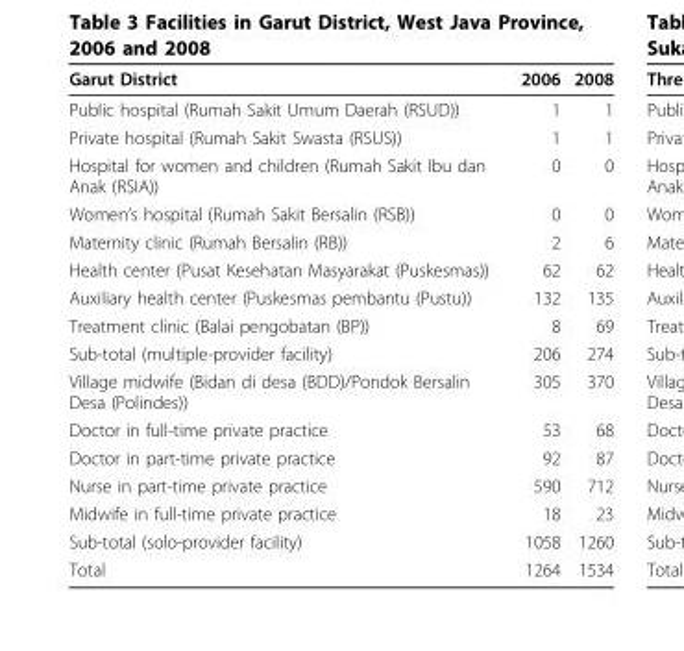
<table><thead><tr><td>Garut District</td><td>2006</td><td>2008</td></tr></thead><tbody><tr><td>Public hospital (Rumah Sakit Umum Daerah (RSUD))</td><td>1</td><td>1</td></tr><tr><td>Private hospital (Rumah Sakit Swasta (RSUS))</td><td>1</td><td>1</td></tr><tr><td>Hospital for women and children (Rumah Sakit Ibu dan Anak (RSIA))</td><td>0</td><td>0</td></tr><tr><td>Women’s hospital (Rumah Sakit Bersalin (RSB))</td><td>0</td><td>0</td></tr><tr><td>Maternity clinic (Rumah Bersalin (RB))</td><td>2</td><td>6</td></tr><tr><td>Health center (Pusat Kesehatan Masyarakat (Puskesmas))</td><td>62</td><td>62</td></tr><tr><td>Auxiliary health center (Puskesmas pembantu (Pustu))</td><td>132</td><td>135</td></tr><tr><td>Treatment clinic (Balai pengobatan (BP))</td><td>8</td><td>69</td></tr><tr><td>Sub-total (multiple-provider facility)</td><td>206</td><td>274</td></tr><tr><td>Village midwife (Bidan di desa (BDD)/Pondok Bersalin Desa (Polindes))</td><td>305</td><td>370</td></tr><tr><td>Doctor in full-time private practice</td><td>53</td><td>68</td></tr><tr><td>Doctor in part-time private practice</td><td>92</td><td>87</td></tr><tr><td>Nurse in part-time private practice</td><td>590</td><td>712</td></tr><tr><td>Midwife in full-time private practice</td><td>18</td><td>23</td></tr><tr><td>Sub-total (solo-provider facility)</td><td>1058</td><td>1260</td></tr><tr><td>Total</td><td>1264</td><td>1534</td></tr></tbody></table>